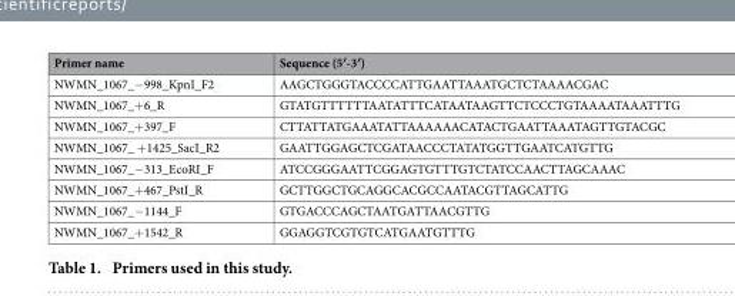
<table><thead><tr><td>Primer name</td><td>Sequence (5′-3′)</td></tr></thead><tbody><tr><td>NWMN_1067_− 998_KpnI_F2</td><td>AAGCTGGGTACCCCATTGAATTAAATGCTCTAAAACGAC</td></tr><tr><td>NWMN_1067_+ 6_R</td><td>GTATGTTTTTTAATATTTCATAATAAGTTCTCCCTGTAAAATAAATTTG</td></tr><tr><td>NWMN_1067_+ 397_F</td><td>CTTATTATGAAATATTAAAAAACATACTGAATTAAATAGTTGTACGC</td></tr><tr><td>NWMN_1067_ + 1425_SacI_R2</td><td>GAATTGGAGCTCGATAACCCTATATGGTTGAATCATGTTG</td></tr><tr><td>NWMN_1067_− 313_EcoRI_F</td><td>ATCCGGGAATTCGGAGTGTTTGTCTATCCAACTTAGCAAAC</td></tr><tr><td>NWMN_1067_+ 467_PstI_R</td><td>GCTTGGCTGCAGGCACGCCAATACGTTAGCATTG</td></tr><tr><td>NWMN_1067_− 1144_F</td><td>GTGACCCAGCTAATGATTAACGTTG</td></tr><tr><td>NWMN_1067_+ 1542_R</td><td>GGAGGTCGTGTCATGAATGTTTG</td></tr></tbody></table>